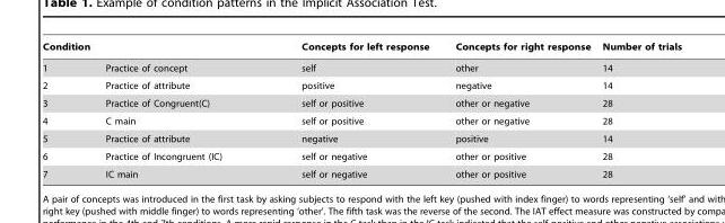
<table><thead><tr><td colspan="2">Condition</td><td rowspan="2">Concepts for left response self</td><td rowspan="2">Concepts for right response other</td><td rowspan="2">Number of trials 14</td></tr><tr><td>1</td><td>Practice of concept</td></tr></thead><tbody><tr><td>2</td><td>Practice of attribute</td><td>positive</td><td>negative</td><td>14</td></tr><tr><td>3</td><td>Practice of Congruent(C)</td><td>self or positive</td><td>other or negative</td><td>28</td></tr><tr><td>4</td><td>C main</td><td>self or positive</td><td>other or negative</td><td>28</td></tr><tr><td>5</td><td>Practice of attribute</td><td>negative</td><td>positive</td><td>14</td></tr><tr><td>6</td><td>Practice of Incongruent (IC)</td><td>self or negative</td><td>other or positive</td><td>28</td></tr><tr><td>7</td><td>IC main</td><td>self or negative</td><td>other or positive</td><td>28</td></tr></tbody></table>